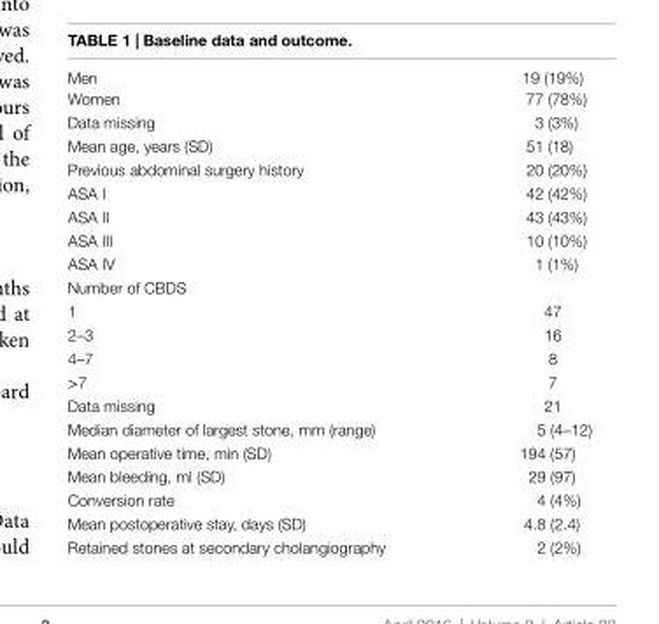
<table><tbody><tr><td>Men</td><td>19 (19%)</td></tr><tr><td>Women</td><td>77 (78%)</td></tr><tr><td>Data missing</td><td>3 (3%)</td></tr><tr><td>Mean age, years (SD)</td><td>51 (18)</td></tr><tr><td>Previous abdominal surgery history</td><td>20 (20%)</td></tr><tr><td>ASA I</td><td>42 (42%)</td></tr><tr><td>ASA II</td><td>43 (43%)</td></tr><tr><td>ASA III</td><td>10 (10%)</td></tr><tr><td>ASA IV</td><td>1 (1%)</td></tr><tr><td colspan="2">Number of CBDS</td></tr><tr><td>1</td><td>47</td></tr><tr><td>2–3</td><td>16</td></tr><tr><td>4–7</td><td>8</td></tr><tr><td>&gt;7</td><td>7</td></tr><tr><td>Data missing</td><td>21</td></tr><tr><td>Median diameter of largest stone, mm (range)</td><td>5 (4–12)</td></tr><tr><td>Mean operative time, min (SD)</td><td>194 (57)</td></tr><tr><td>Mean bleeding, ml (SD)</td><td>29 (97)</td></tr><tr><td>Conversion rate</td><td>4 (4%)</td></tr><tr><td>Mean postoperative stay, days (SD)</td><td>4.8 (2.4)</td></tr><tr><td>Retained stones at secondary cholangiography</td><td>2 (2%)</td></tr></tbody></table>